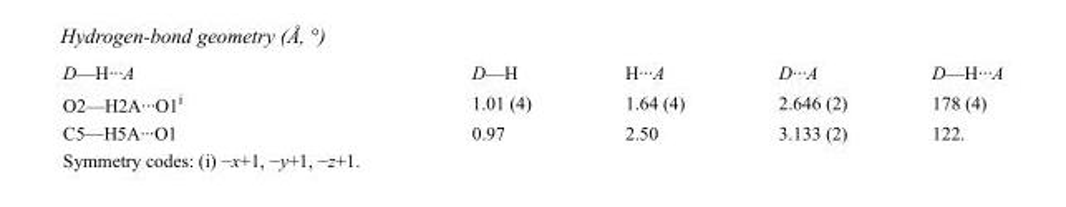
<table><tbody><tr><td>D—H···A</td><td>D—H</td><td>H···A</td><td>D···A</td><td>D—H···A</td></tr><tr><td>O2—H2A···O1<sup>i</sup></td><td>1.01 (4)</td><td>1.64 (4)</td><td>2.646 (2)</td><td>178 (4)</td></tr><tr><td>C5—H5A···O1</td><td>0.97</td><td>2.50</td><td>3.133 (2)</td><td>122.</td></tr></tbody></table>